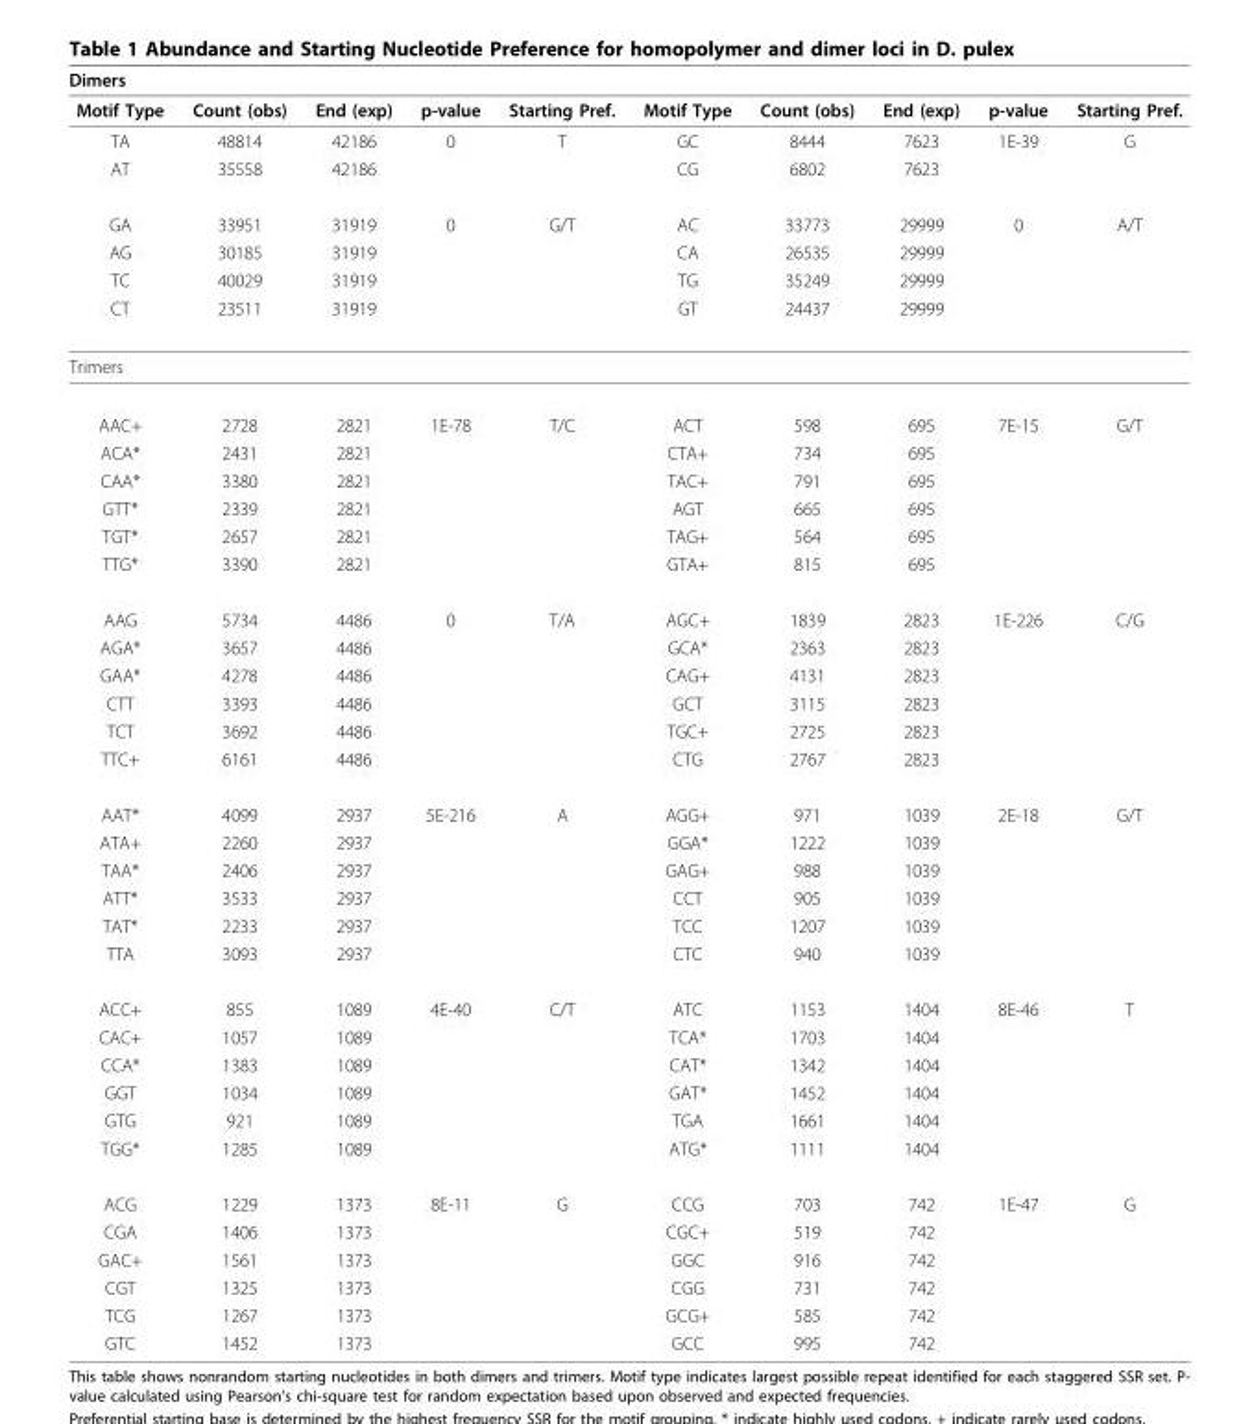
<table><thead><tr><td colspan="10">Dimers</td></tr><tr><td>Motif Type</td><td>Count (obs)</td><td>End (exp)</td><td>p-value</td><td>Starting Pref.</td><td>Motif Type</td><td>Count (obs)</td><td>End (exp)</td><td>p-value</td><td>Starting Pref.</td></tr></thead><tbody><tr><td>TA</td><td>48814</td><td>42186</td><td>0</td><td>T</td><td>GC</td><td>8444</td><td>7623</td><td>1E-39</td><td>G</td></tr><tr><td>AT</td><td>35558</td><td>42186</td><td></td><td></td><td>CG</td><td>6802</td><td>7623</td><td></td><td></td></tr><tr><td>GA</td><td>33951</td><td>31919</td><td>0</td><td>G/T</td><td>AC</td><td>33773</td><td>29999</td><td>0</td><td>A/T</td></tr><tr><td>AG</td><td>30185</td><td>31919</td><td></td><td></td><td>CA</td><td>26535</td><td>29999</td><td></td><td></td></tr><tr><td>TC</td><td>40029</td><td>31919</td><td></td><td></td><td>TG</td><td>35249</td><td>29999</td><td></td><td></td></tr><tr><td>CT</td><td>23511</td><td>31919</td><td></td><td></td><td>GT</td><td>24437</td><td>29999</td><td></td><td></td></tr><tr><td colspan="10">Trimers</td></tr><tr><td>AAC+</td><td>2728</td><td>2821</td><td>1E-78</td><td>T/C</td><td>ACT</td><td>598</td><td>695</td><td>7E-15</td><td>G/T</td></tr><tr><td>ACA*</td><td>2431</td><td>2821</td><td></td><td></td><td>CTA+</td><td>734</td><td>695</td><td></td><td></td></tr><tr><td>CAA*</td><td>3380</td><td>2821</td><td></td><td></td><td>TAC+</td><td>791</td><td>695</td><td></td><td></td></tr><tr><td>GTT*</td><td>2339</td><td>2821</td><td></td><td></td><td>AGT</td><td>665</td><td>695</td><td></td><td></td></tr><tr><td>TGT*</td><td>2657</td><td>2821</td><td></td><td></td><td>TAG+</td><td>564</td><td>695</td><td></td><td></td></tr><tr><td>TTG*</td><td>3390</td><td>2821</td><td></td><td></td><td>GTA+</td><td>815</td><td>695</td><td></td><td></td></tr><tr><td>AAG</td><td>5734</td><td>4486</td><td>0</td><td>T/A</td><td>AGC+</td><td>1839</td><td>2823</td><td>1E-226</td><td>C/G</td></tr><tr><td>AGA*</td><td>3657</td><td>4486</td><td></td><td></td><td>GCA*</td><td>2363</td><td>2823</td><td></td><td></td></tr><tr><td>GAA*</td><td>4278</td><td>4486</td><td></td><td></td><td>CAG+</td><td>4131</td><td>2823</td><td></td><td></td></tr><tr><td>CTT</td><td>3393</td><td>4486</td><td></td><td></td><td>GCT</td><td>3115</td><td>2823</td><td></td><td></td></tr><tr><td>TCT</td><td>3692</td><td>4486</td><td></td><td></td><td>TGC+</td><td>2725</td><td>2823</td><td></td><td></td></tr><tr><td>TTC+</td><td>6161</td><td>4486</td><td></td><td></td><td>CTG</td><td>2767</td><td>2823</td><td></td><td></td></tr><tr><td>AAT*</td><td>4099</td><td>2937</td><td>5E-216</td><td>A</td><td>AGG+</td><td>971</td><td>1039</td><td>2E-18</td><td>G/T</td></tr><tr><td>ATA+</td><td>2260</td><td>2937</td><td></td><td></td><td>GGA*</td><td>1222</td><td>1039</td><td></td><td></td></tr><tr><td>TAA*</td><td>2406</td><td>2937</td><td></td><td></td><td>GAG+</td><td>988</td><td>1039</td><td></td><td></td></tr><tr><td>ATT*</td><td>3533</td><td>2937</td><td></td><td></td><td>CCT</td><td>905</td><td>1039</td><td></td><td></td></tr><tr><td>TAT*</td><td>2233</td><td>2937</td><td></td><td></td><td>TCC</td><td>1207</td><td>1039</td><td></td><td></td></tr><tr><td>TTA</td><td>3093</td><td>2937</td><td></td><td></td><td>CTC</td><td>940</td><td>1039</td><td></td><td></td></tr><tr><td>ACC+</td><td>855</td><td>1089</td><td>4E-40</td><td>C/T</td><td>ATC</td><td>1153</td><td>1404</td><td>8E-46</td><td>T</td></tr><tr><td>CAC+</td><td>1057</td><td>1089</td><td></td><td></td><td>TCA*</td><td>1703</td><td>1404</td><td></td><td></td></tr><tr><td>CCA*</td><td>1383</td><td>1089</td><td></td><td></td><td>CAT*</td><td>1342</td><td>1404</td><td></td><td></td></tr><tr><td>GGT</td><td>1034</td><td>1089</td><td></td><td></td><td>GAT*</td><td>1452</td><td>1404</td><td></td><td></td></tr><tr><td>GTG</td><td>921</td><td>1089</td><td></td><td></td><td>TGA</td><td>1661</td><td>1404</td><td></td><td></td></tr><tr><td>TGG*</td><td>1285</td><td>1089</td><td></td><td></td><td>ATG*</td><td>1111</td><td>1404</td><td></td><td></td></tr><tr><td>ACG</td><td>1229</td><td>1373</td><td>8E-11</td><td>G</td><td>CCG</td><td>703</td><td>742</td><td>1E-47</td><td>G</td></tr><tr><td>CGA</td><td>1406</td><td>1373</td><td></td><td></td><td>CGC+</td><td>519</td><td>742</td><td></td><td></td></tr><tr><td>GAC+</td><td>1561</td><td>1373</td><td></td><td></td><td>GGC</td><td>916</td><td>742</td><td></td><td></td></tr><tr><td>CGT</td><td>1325</td><td>1373</td><td></td><td></td><td>CGG</td><td>731</td><td>742</td><td></td><td></td></tr><tr><td>TCG</td><td>1267</td><td>1373</td><td></td><td></td><td>GCG+</td><td>585</td><td>742</td><td></td><td></td></tr><tr><td>GTC</td><td>1452</td><td>1373</td><td></td><td></td><td>GCC</td><td>995</td><td>742</td><td></td><td></td></tr></tbody></table>